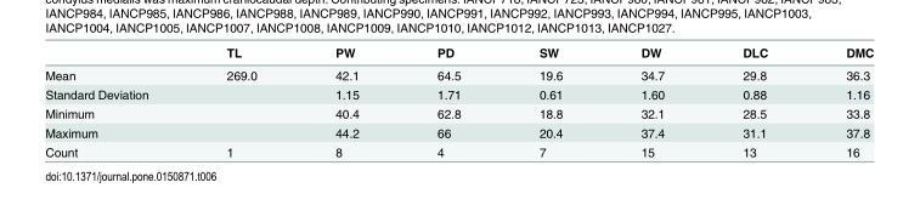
<table><thead><tr><td></td><td>TL</td><td>PW</td><td>PD</td><td>SW</td><td>DW</td><td>DLC</td><td>DMC</td></tr></thead><tbody><tr><td>Mean</td><td>269.0</td><td>42.1</td><td>64.5</td><td>19.6</td><td>34.7</td><td>29.8</td><td>36.3</td></tr><tr><td>Standard Deviation</td><td></td><td>1.15</td><td>1.71</td><td>0.61</td><td>1.60</td><td>0.88</td><td>1.16</td></tr><tr><td>Minimum</td><td></td><td>40.4</td><td>62.8</td><td>18.8</td><td>32.1</td><td>28.5</td><td>33.8</td></tr><tr><td>Maximum</td><td></td><td>44.2</td><td>66</td><td>20.4</td><td>37.4</td><td>31.1</td><td>37.8</td></tr><tr><td>Count</td><td>1</td><td>8</td><td>4</td><td>7</td><td>15</td><td>13</td><td>16</td></tr></tbody></table>